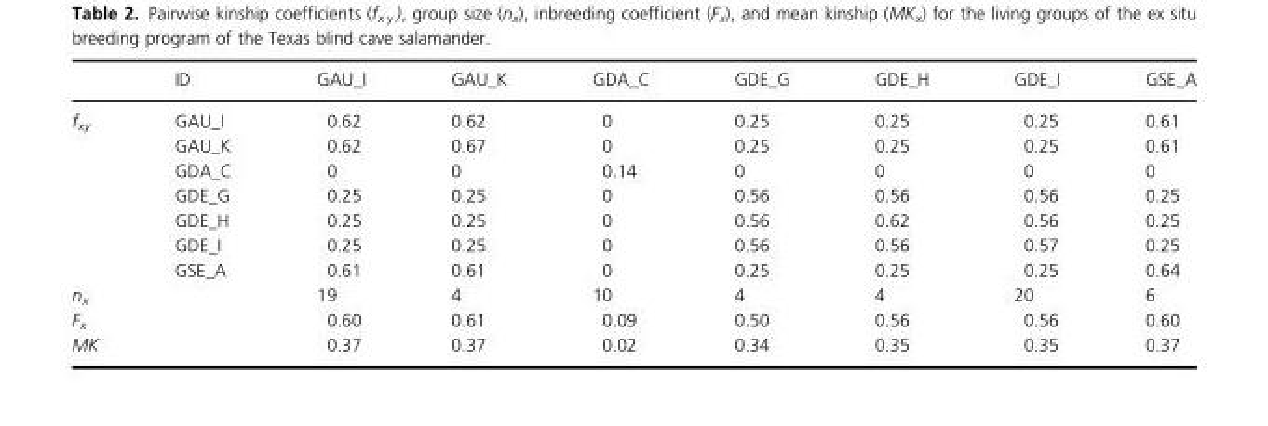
<table><thead><tr><td></td><td>ID</td><td>GAU_I</td><td>GAU_K</td><td>GDA_C</td><td>GDE_G</td><td>GDE_H</td><td>GDE_I</td><td>GSE_A</td></tr></thead><tbody><tr><td rowspan="7">f<sub>xy</sub></td><td>GAU_I</td><td>0.62</td><td>0.62</td><td>0</td><td>0.25</td><td>0.25</td><td>0.25</td><td>0.61</td></tr><tr><td>GAU_K</td><td>0.62</td><td>0.67</td><td>0</td><td>0.25</td><td>0.25</td><td>0.25</td><td>0.61</td></tr><tr><td>GDA_C</td><td>0</td><td>0</td><td>0.14</td><td>0</td><td>0</td><td>0</td><td>0</td></tr><tr><td>GDE_G</td><td>0.25</td><td>0.25</td><td>0</td><td>0.56</td><td>0.56</td><td>0.56</td><td>0.25</td></tr><tr><td>GDE_H</td><td>0.25</td><td>0.25</td><td>0</td><td>0.56</td><td>0.62</td><td>0.56</td><td>0.25</td></tr><tr><td>GDE_I</td><td>0.25</td><td>0.25</td><td>0</td><td>0.56</td><td>0.56</td><td>0.57</td><td>0.25</td></tr><tr><td>GSE_A</td><td>0.61</td><td>0.61</td><td>0</td><td>0.25</td><td>0.25</td><td>0.25</td><td>0.64</td></tr><tr><td colspan="2">n<sub>x</sub></td><td>19</td><td>4</td><td>10</td><td>4</td><td>4</td><td>20</td><td>6</td></tr><tr><td colspan="2">F<sub>x</sub></td><td>0.60</td><td>0.61</td><td>0.09</td><td>0.50</td><td>0.56</td><td>0.56</td><td>0.60</td></tr><tr><td colspan="2">MK</td><td>0.37</td><td>0.37</td><td>0.02</td><td>0.34</td><td>0.35</td><td>0.35</td><td>0.37</td></tr></tbody></table>